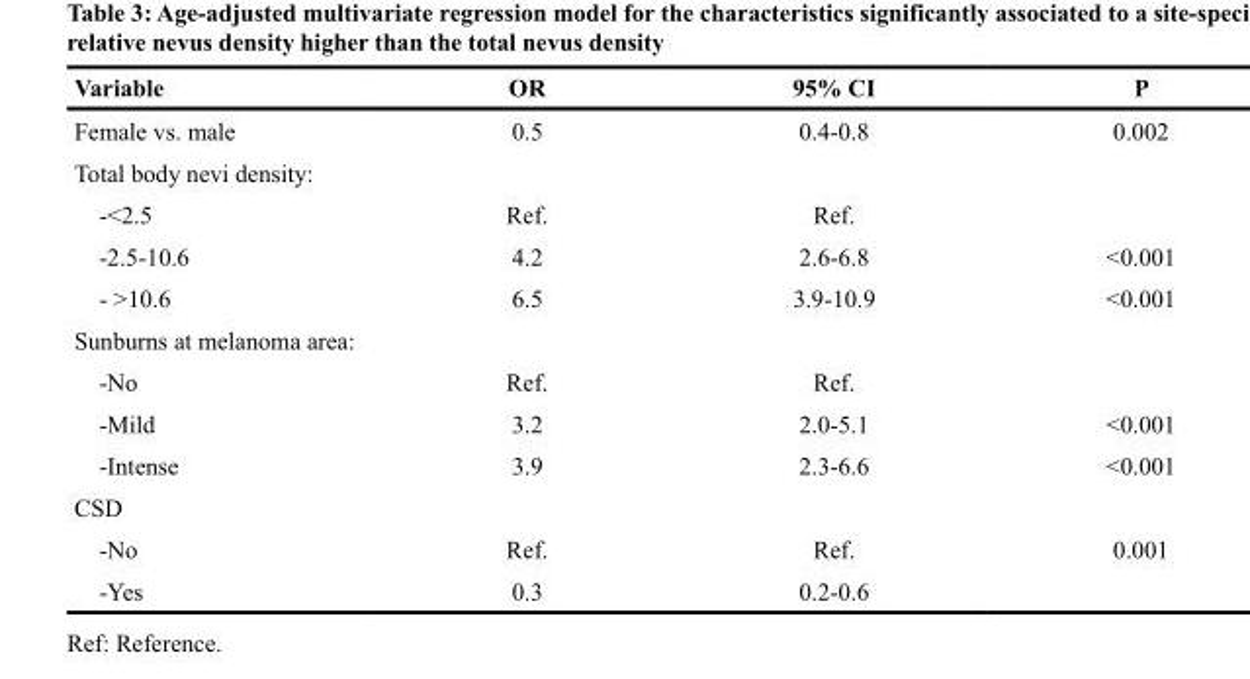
<table><thead><tr><td>Variable</td><td>OR</td><td>95% CI</td><td>P</td></tr></thead><tbody><tr><td>Female vs. male</td><td>0.5</td><td>0.4-0.8</td><td>0.002</td></tr><tr><td colspan="4">Total body nevi density:</td></tr><tr><td>-&lt;2.5</td><td>Ref.</td><td>Ref.</td><td></td></tr><tr><td>-2.5-10.6</td><td>4.2</td><td>2.6-6.8</td><td>&lt;0.001</td></tr><tr><td>- &gt;10.6</td><td>6.5</td><td>3.9-10.9</td><td>&lt;0.001</td></tr><tr><td colspan="4">Sunburns at melanoma area:</td></tr><tr><td>-No</td><td>Ref.</td><td>Ref.</td><td></td></tr><tr><td>-Mild</td><td>3.2</td><td>2.0-5.1</td><td>&lt;0.001</td></tr><tr><td>-Intense</td><td>3.9</td><td>2.3-6.6</td><td>&lt;0.001</td></tr><tr><td colspan="4">CSD</td></tr><tr><td>-No</td><td>Ref.</td><td>Ref.</td><td>0.001</td></tr><tr><td>-Yes</td><td>0.3</td><td>0.2-0.6</td><td></td></tr></tbody></table>